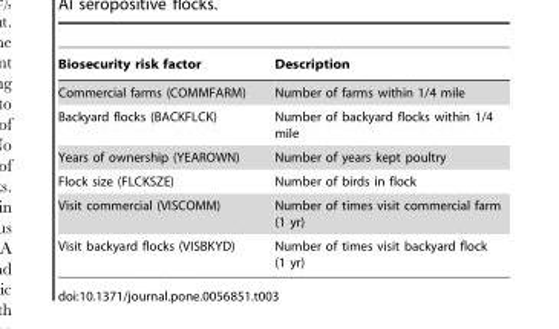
<table><thead><tr><td>Biosecurity risk factor</td><td>Description</td></tr></thead><tbody><tr><td>Commercial farms (COMMFARM)</td><td>Number of farms within 1/4 mile</td></tr><tr><td>Backyard flocks (BACKFLCK)</td><td>Number of backyard flocks within 1/4 mile</td></tr><tr><td>Years of ownership (YEAROWN)</td><td>Number of years kept poultry</td></tr><tr><td>Flock size (FLCKSZE)</td><td>Number of birds in flock</td></tr><tr><td>Visit commercial (VISCOMM)</td><td>Number of times visit commercial farm (1 yr)</td></tr><tr><td>Visit backyard flocks (VISBKYD)</td><td>Number of times visit backyard flock (1 yr)</td></tr></tbody></table>